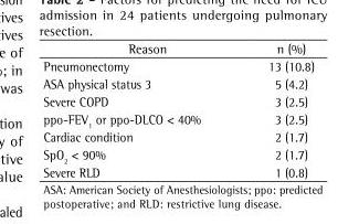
<table><thead><tr><td>Reason</td><td>n (%)</td></tr></thead><tbody><tr><td>Pneumonectomy</td><td>13 (10.8)</td></tr><tr><td>ASA physical status 3</td><td>5 (4.2)</td></tr><tr><td>Severe COPD</td><td>3 (2.5)</td></tr><tr><td>ppo-FEV<sub>1</sub> or ppo-DLCO &lt; 40%</td><td>3 (2.5)</td></tr><tr><td>Cardiac condition</td><td>2 (1.7)</td></tr><tr><td>SpO<sub>2</sub> &lt; 90%</td><td>2 (1.7)</td></tr><tr><td>Severe RLD</td><td>1 (0.8)</td></tr></tbody></table>